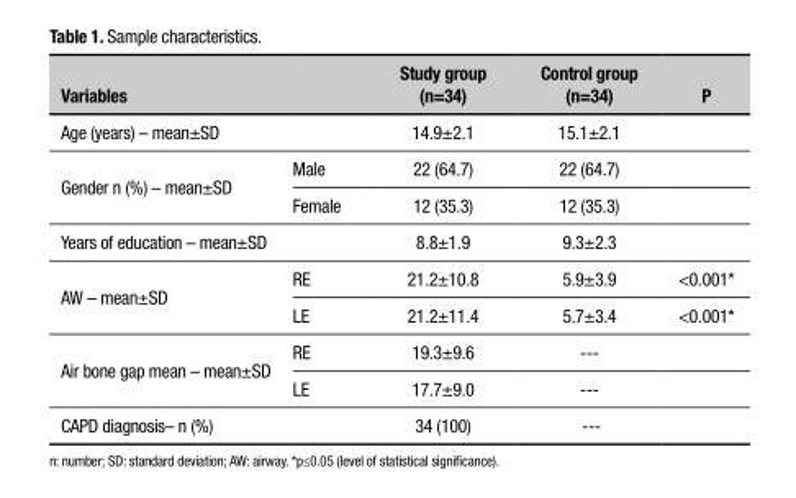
<table><thead><tr><td>Variables</td><td></td><td>Study group (n=34)</td><td>Control group (n=34)</td><td>P</td></tr></thead><tbody><tr><td colspan="2">Age (years) – mean±SD</td><td>14.9±2.1</td><td>15.1±2.1</td><td></td></tr><tr><td rowspan="2">Gender n (%) – mean±SD</td><td>Male</td><td>22 (64.7)</td><td>22 (64.7)</td><td></td></tr><tr><td>Female</td><td>12 (35.3)</td><td>12 (35.3)</td><td></td></tr><tr><td colspan="2">Years of education – mean±SD</td><td>8.8±1.9</td><td>9.3±2.3</td><td></td></tr><tr><td rowspan="2">AW – mean±SD</td><td>RE</td><td>21.2±10.8</td><td>5.9±3.9</td><td>&lt;0.001*</td></tr><tr><td>LE</td><td>21.2±11.4</td><td>5.7±3.4</td><td>&lt;0.001*</td></tr><tr><td rowspan="2">Air bone gap mean – mean±SD</td><td>RE</td><td>19.3±9.6</td><td>---</td><td></td></tr><tr><td>LE</td><td>17.7±9.0</td><td>---</td><td></td></tr><tr><td>CAPD diagnosis– n (%)</td><td></td><td>34 (100)</td><td>---</td><td></td></tr></tbody></table>